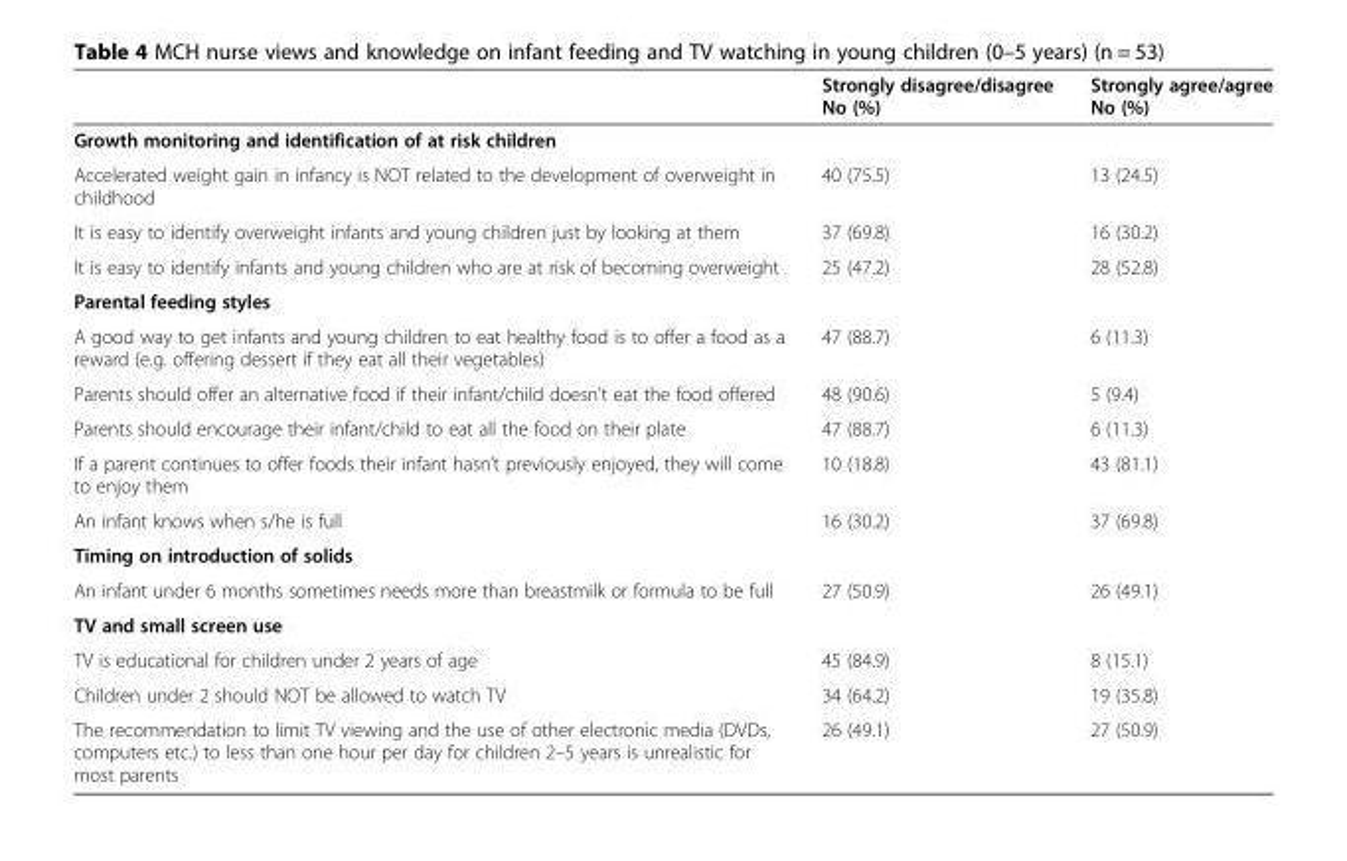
<table><thead><tr><td></td><td>Strongly disagree/disagree No (%)</td><td>Strongly agree/agree No (%)</td></tr></thead><tbody><tr><td colspan="3">Growth monitoring and identification of at risk children</td></tr><tr><td>Accelerated weight gain in infancy is NOT related to the development of overweight in childhood</td><td>40 (75.5)</td><td>13 (24.5)</td></tr><tr><td>It is easy to identify overweight infants and young children just by looking at them</td><td>37 (69.8)</td><td>16 (30.2)</td></tr><tr><td>It is easy to identify infants and young children who are at risk of becoming overweight</td><td>25 (47.2)</td><td>28 (52.8)</td></tr><tr><td colspan="3">Parental feeding styles</td></tr><tr><td>A good way to get infants and young children to eat healthy food is to offer a food as a reward (e.g. offering dessert if they eat all their vegetables)</td><td>47 (88.7)</td><td>6 (11.3)</td></tr><tr><td>Parents should offer an alternative food if their infant/child doesn’t eat the food offered</td><td>48 (90.6)</td><td>5 (9.4)</td></tr><tr><td>Parents should encourage their infant/child to eat all the food on their plate</td><td>47 (88.7)</td><td>6 (11.3)</td></tr><tr><td>If a parent continues to offer foods their infant hasn’t previously enjoyed, they will come to enjoy them</td><td>10 (18.8)</td><td>43 (81.1)</td></tr><tr><td>An infant knows when s/he is full</td><td>16 (30.2)</td><td>37 (69.8)</td></tr><tr><td colspan="3">Timing on introduction of solids</td></tr><tr><td>An infant under 6 months sometimes needs more than breastmilk or formula to be full</td><td>27 (50.9)</td><td>26 (49.1)</td></tr><tr><td colspan="3">TV and small screen use</td></tr><tr><td>TV is educational for children under 2 years of age</td><td>45 (84.9)</td><td>8 (15.1)</td></tr><tr><td>Children under 2 should NOT be allowed to watch TV</td><td>34 (64.2)</td><td>19 (35.8)</td></tr><tr><td>The recommendation to limit TV viewing and the use of other electronic media (DVDs, computers etc.) to less than one hour per day for children 2–5 years is unrealistic for most parents</td><td>26 (49.1)</td><td>27 (50.9)</td></tr></tbody></table>